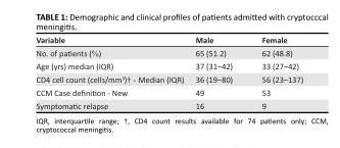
<table><thead><tr><td>Variable</td><td>Male</td><td>Female</td></tr></thead><tbody><tr><td>No. of patients (%)</td><td>65 (51.2)</td><td>62 (48.8)</td></tr><tr><td>Age (yrs) median (IQR)</td><td>37 (31–42)</td><td>33 (27–42)</td></tr><tr><td>CD4 cell count (cells/mm<sup>3</sup>)† - Median (IQR)</td><td>36 (19–80)</td><td>56 (23–137)</td></tr><tr><td>CCM Case definition - New</td><td>49</td><td>53</td></tr><tr><td>Symptomatic relapse</td><td>16</td><td>9</td></tr></tbody></table>